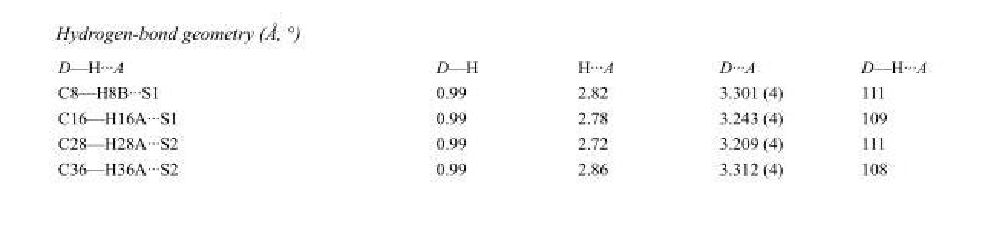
<table><tbody><tr><td>D—H···A</td><td>D—H</td><td>H···A</td><td>D···A</td><td>D—H···A</td></tr><tr><td>C8—H8B···S1</td><td>0.99</td><td>2.82</td><td>3.301 (4)</td><td>111</td></tr><tr><td>C16—H16A···S1</td><td>0.99</td><td>2.78</td><td>3.243 (4)</td><td>109</td></tr><tr><td>C28—H28A···S2</td><td>0.99</td><td>2.72</td><td>3.209 (4)</td><td>111</td></tr><tr><td>C36—H36A···S2</td><td>0.99</td><td>2.86</td><td>3.312 (4)</td><td>108</td></tr></tbody></table>